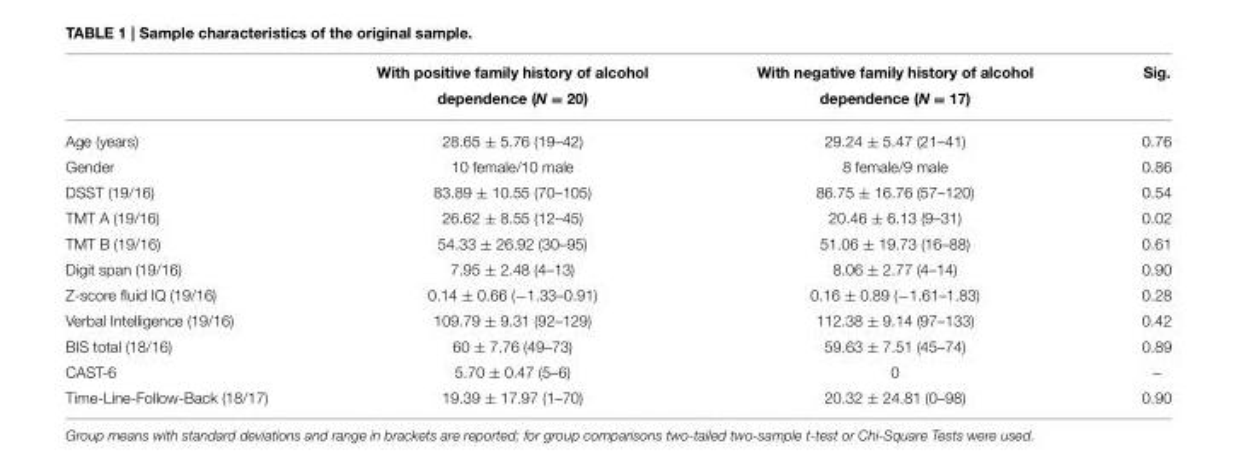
<table><thead><tr><td></td><td>With positive family history of alcohol dependence (N = 20)</td><td>With negative family history of alcohol dependence (N = 17)</td><td>Sig.</td></tr></thead><tbody><tr><td>Age (years)</td><td>28.65 ± 5.76 (19–42)</td><td>29.24 ± 5.47 (21–41)</td><td>0.76</td></tr><tr><td>Gender</td><td>10 female/10 male</td><td>8 female/9 male</td><td>0.86</td></tr><tr><td>DSST (19/16)</td><td>83.89 ± 10.55 (70–105)</td><td>86.75 ± 16.76 (57–120)</td><td>0.54</td></tr><tr><td>TMT A (19/16)</td><td>26.62 ± 8.55 (12–45)</td><td>20.46 ± 6.13 (9–31)</td><td>0.02</td></tr><tr><td>TMT B (19/16)</td><td>54.33 ± 26.92 (30–95)</td><td>51.06 ± 19.73 (16–88)</td><td>0.61</td></tr><tr><td>Digit span (19/16)</td><td>7.95 ± 2.48 (4–13)</td><td>8.06 ± 2.77 (4–14)</td><td>0.90</td></tr><tr><td>Z-score fluid IQ (19/16)</td><td>0.14 ± 0.66 (−1.33–0.91)</td><td>0.16 ± 0.89 (−1.61–1.83)</td><td>0.28</td></tr><tr><td>Verbal Intelligence (19/16)</td><td>109.79 ± 9.31 (92–129)</td><td>112.38 ± 9.14 (97–133)</td><td>0.42</td></tr><tr><td>BIS total (18/16)</td><td>60 ± 7.76 (49–73)</td><td>59.63 ± 7.51 (45–74)</td><td>0.89</td></tr><tr><td>CAST-6</td><td>5.70 ± 0.47 (5–6)</td><td>0</td><td>–</td></tr><tr><td>Time-Line-Follow-Back (18/17)</td><td>19.39 ± 17.97 (1–70)</td><td>20.32 ± 24.81 (0–98)</td><td>0.90</td></tr></tbody></table>